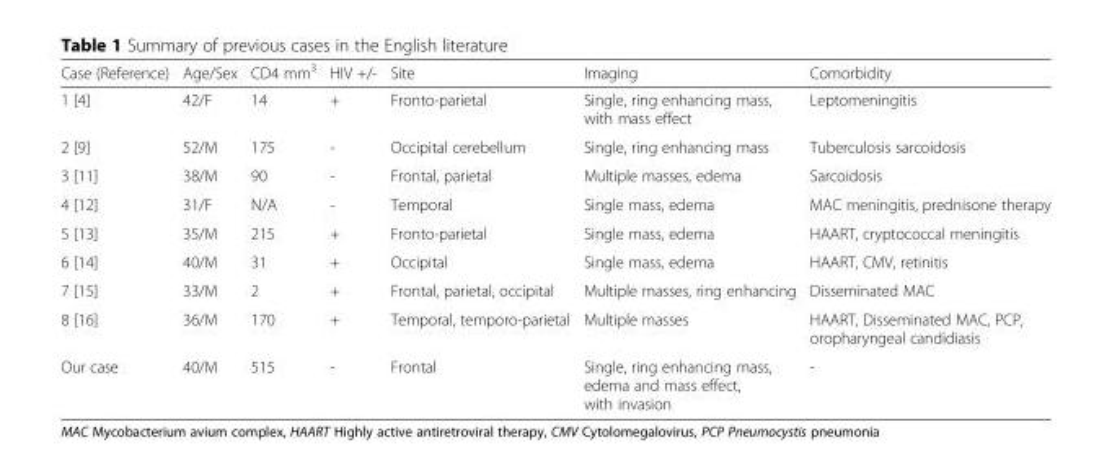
<table><thead><tr><td>Case (Reference)</td><td>Age/Sex</td><td>CD4 mm<sup>3</sup></td><td>HIV +/-</td><td>Site</td><td>Imaging</td><td>Comorbidity</td></tr></thead><tbody><tr><td>1 [4]</td><td>42/F</td><td>14</td><td>+</td><td>Fronto-parietal</td><td>Single, ring enhancing mass, with mass effect</td><td>Leptomeningitis</td></tr><tr><td>2 [9]</td><td>52/M</td><td>175</td><td>-</td><td>Occipital cerebellum</td><td>Single, ring enhancing mass</td><td>Tuberculosis sarcoidosis</td></tr><tr><td>3 [11]</td><td>38/M</td><td>90</td><td>-</td><td>Frontal, parietal</td><td>Multiple masses, edema</td><td>Sarcoidosis</td></tr><tr><td>4 [12]</td><td>31/F</td><td>N/A</td><td>-</td><td>Temporal</td><td>Single mass, edema</td><td>MAC meningitis, prednisone therapy</td></tr><tr><td>5 [13]</td><td>35/M</td><td>215</td><td>+</td><td>Fronto-parietal</td><td>Single mass, edema</td><td>HAART, cryptococcal meningitis</td></tr><tr><td>6 [14]</td><td>40/M</td><td>31</td><td>+</td><td>Occipital</td><td>Single mass, edema</td><td>HAART, CMV, retinitis</td></tr><tr><td>7 [15]</td><td>33/M</td><td>2</td><td>+</td><td>Frontal, parietal, occipital</td><td>Multiple masses, ring enhancing</td><td>Disseminated MAC</td></tr><tr><td>8 [16]</td><td>36/M</td><td>170</td><td>+</td><td>Temporal, temporo-parietal</td><td>Multiple masses</td><td>HAART, Disseminated MAC, PCP, oropharyngeal candidiasis</td></tr><tr><td>Our case</td><td>40/M</td><td>515</td><td>-</td><td>Frontal</td><td>Single, ring enhancing mass, edema and mass effect, with invasion</td><td>-</td></tr></tbody></table>